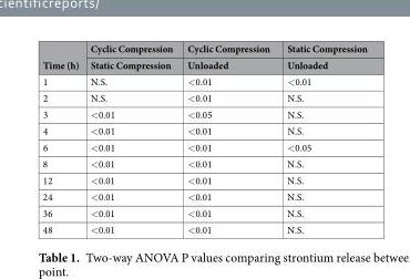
<table><thead><tr><td rowspan="2">Time (h)</td><td rowspan="2">Cyclic Compression Static Compression</td><td rowspan="2">Cyclic Compression Unloaded</td><td rowspan="2">Static Compression Unloaded</td></tr><tr></tr></thead><tbody><tr><td>1</td><td>N.S.</td><td>&lt;0.01</td><td>&lt;0.01</td></tr><tr><td>2</td><td>N.S.</td><td>&lt;0.01</td><td>N.S.</td></tr><tr><td>3</td><td>&lt;0.01</td><td>&lt;0.05</td><td>N.S.</td></tr><tr><td>4</td><td>&lt;0.01</td><td>&lt;0.01</td><td>N.S.</td></tr><tr><td>6</td><td>&lt;0.01</td><td>&lt;0.01</td><td>&lt;0.05</td></tr><tr><td>8</td><td>&lt;0.01</td><td>&lt;0.01</td><td>N.S.</td></tr><tr><td>12</td><td>&lt;0.01</td><td>&lt;0.01</td><td>N.S.</td></tr><tr><td>24</td><td>&lt;0.01</td><td>&lt;0.01</td><td>N.S.</td></tr><tr><td>36</td><td>&lt;0.01</td><td>&lt;0.01</td><td>N.S.</td></tr><tr><td>48</td><td>&lt;0.01</td><td>&lt;0.01</td><td>N.S.</td></tr></tbody></table>